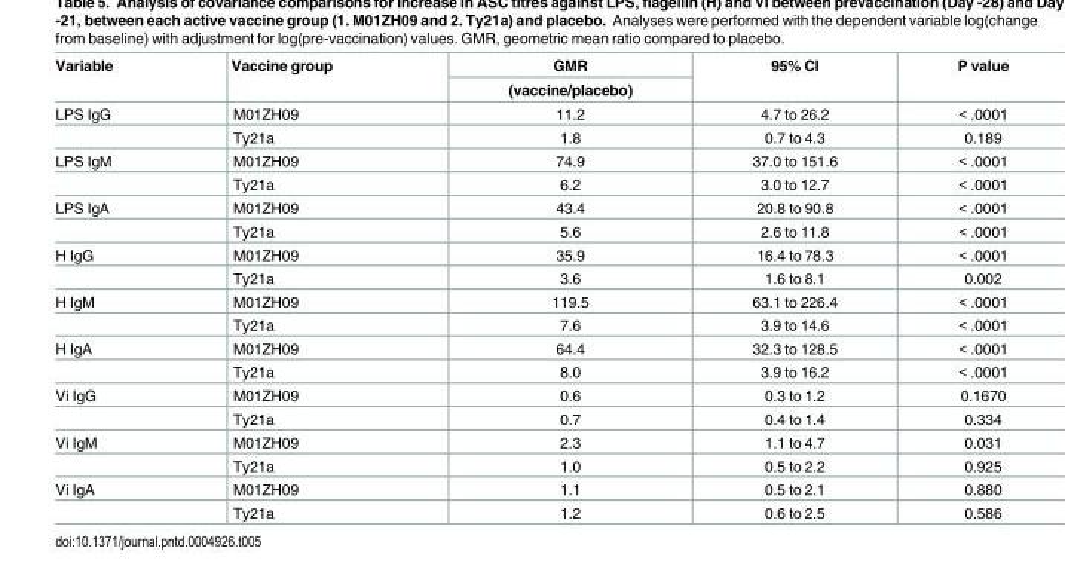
<table><thead><tr><td rowspan="2">Variable</td><td rowspan="2">Vaccine group</td><td rowspan="2">GMR (vaccine/placebo)</td><td rowspan="2">95% CI</td><td rowspan="2">P value</td></tr><tr></tr></thead><tbody><tr><td rowspan="2">LPS IgG</td><td>M01ZH09</td><td>11.2</td><td>4.7 to 26.2</td><td>&lt; .0001</td></tr><tr><td>Ty21a</td><td>1.8</td><td>0.7 to 4.3</td><td>0.189</td></tr><tr><td rowspan="2">LPS IgM</td><td>M01ZH09</td><td>74.9</td><td>37.0 to 151.6</td><td>&lt; .0001</td></tr><tr><td>Ty21a</td><td>6.2</td><td>3.0 to 12.7</td><td>&lt; .0001</td></tr><tr><td rowspan="2">LPS IgA</td><td>M01ZH09</td><td>43.4</td><td>20.8 to 90.8</td><td>&lt; .0001</td></tr><tr><td>Ty21a</td><td>5.6</td><td>2.6 to 11.8</td><td>&lt; .0001</td></tr><tr><td rowspan="2">H IgG</td><td>M01ZH09</td><td>35.9</td><td>16.4 to 78.3</td><td>&lt; .0001</td></tr><tr><td>Ty21a</td><td>3.6</td><td>1.6 to 8.1</td><td>0.002</td></tr><tr><td rowspan="2">H IgM</td><td>M01ZH09</td><td>119.5</td><td>63.1 to 226.4</td><td>&lt; .0001</td></tr><tr><td>Ty21a</td><td>7.6</td><td>3.9 to 14.6</td><td>&lt; .0001</td></tr><tr><td rowspan="2">H IgA</td><td>M01ZH09</td><td>64.4</td><td>32.3 to 128.5</td><td>&lt; .0001</td></tr><tr><td>Ty21a</td><td>8.0</td><td>3.9 to 16.2</td><td>&lt; .0001</td></tr><tr><td rowspan="2">Vi IgG</td><td>M01ZH09</td><td>0.6</td><td>0.3 to 1.2</td><td>0.1670</td></tr><tr><td>Ty21a</td><td>0.7</td><td>0.4 to 1.4</td><td>0.334</td></tr><tr><td rowspan="2">Vi IgM</td><td>M01ZH09</td><td>2.3</td><td>1.1 to 4.7</td><td>0.031</td></tr><tr><td>Ty21a</td><td>1.0</td><td>0.5 to 2.2</td><td>0.925</td></tr><tr><td rowspan="2">Vi IgA</td><td>M01ZH09</td><td>1.1</td><td>0.5 to 2.1</td><td>0.880</td></tr><tr><td>Ty21a</td><td>1.2</td><td>0.6 to 2.5</td><td>0.586</td></tr></tbody></table>